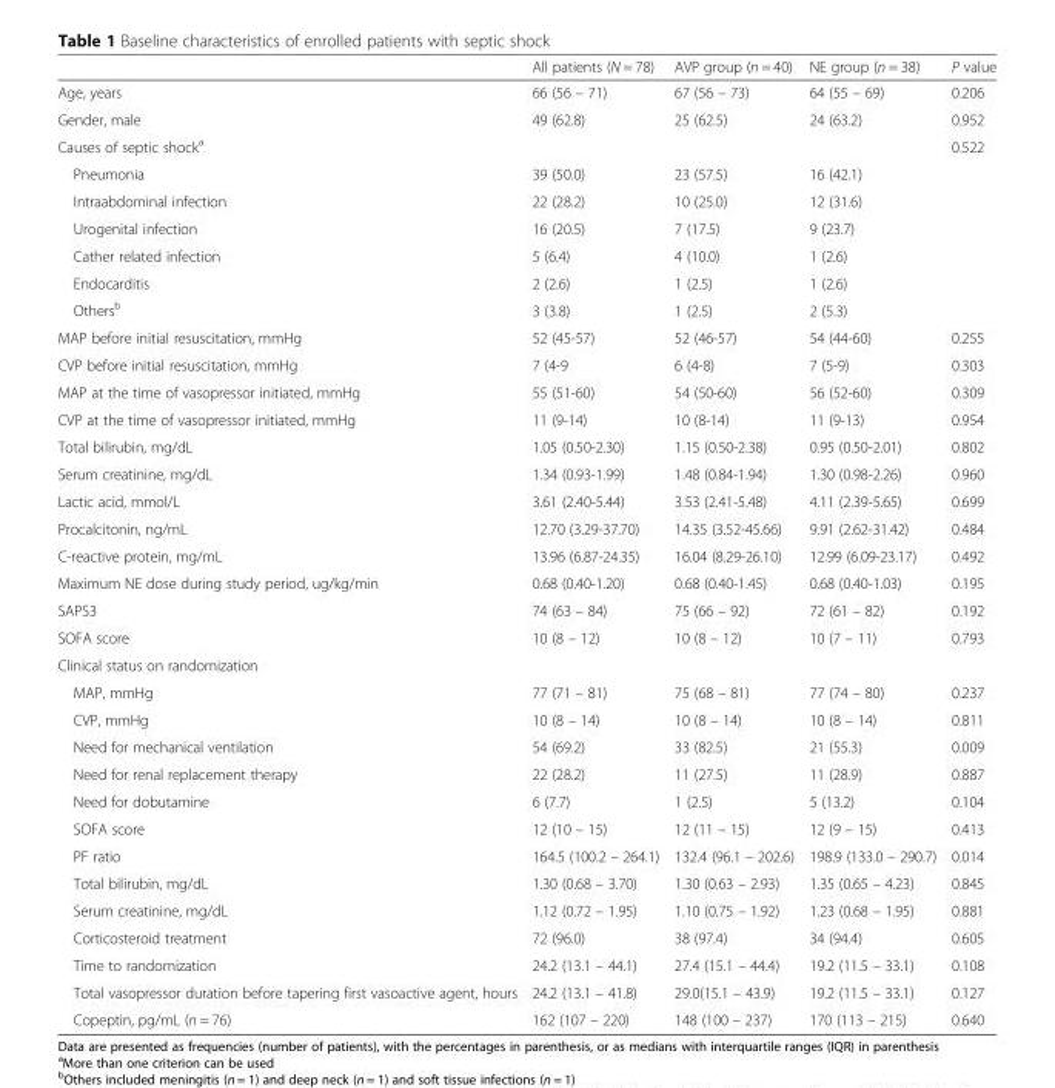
<table><thead><tr><td></td><td>All patients (N = 78)</td><td>AVP group (n = 40)</td><td>NE group (n = 38)</td><td>P value</td></tr></thead><tbody><tr><td>Age, years</td><td>66 (56 – 71)</td><td>67 (56 – 73)</td><td>64 (55 – 69)</td><td>0.206</td></tr><tr><td>Gender, male</td><td>49 (62.8)</td><td>25 (62.5)</td><td>24 (63.2)</td><td>0.952</td></tr><tr><td>Causes of septic shock<sup>a</sup></td><td></td><td></td><td></td><td>0.522</td></tr><tr><td>Pneumonia</td><td>39 (50.0)</td><td>23 (57.5)</td><td>16 (42.1)</td><td></td></tr><tr><td>Intraabdominal infection</td><td>22 (28.2)</td><td>10 (25.0)</td><td>12 (31.6)</td><td></td></tr><tr><td>Urogenital infection</td><td>16 (20.5)</td><td>7 (17.5)</td><td>9 (23.7)</td><td></td></tr><tr><td>Cather related infection</td><td>5 (6.4)</td><td>4 (10.0)</td><td>1 (2.6)</td><td></td></tr><tr><td>Endocarditis</td><td>2 (2.6)</td><td>1 (2.5)</td><td>1 (2.6)</td><td></td></tr><tr><td>Others<sup>b</sup></td><td>3 (3.8)</td><td>1 (2.5)</td><td>2 (5.3)</td><td></td></tr><tr><td>MAP before initial resuscitation, mmHg</td><td>52 (45-57)</td><td>52 (46-57)</td><td>54 (44-60)</td><td>0.255</td></tr><tr><td>CVP before initial resuscitation, mmHg</td><td>7 (4-9</td><td>6 (4-8)</td><td>7 (5-9)</td><td>0.303</td></tr><tr><td>MAP at the time of vasopressor initiated, mmHg</td><td>55 (51-60)</td><td>54 (50-60)</td><td>56 (52-60)</td><td>0.309</td></tr><tr><td>CVP at the time of vasopressor initiated, mmHg</td><td>11 (9-14)</td><td>10 (8-14)</td><td>11 (9-13)</td><td>0.954</td></tr><tr><td>Total bilirubin, mg/dL</td><td>1.05 (0.50-2.30)</td><td>1.15 (0.50-2.38)</td><td>0.95 (0.50-2.01)</td><td>0.802</td></tr><tr><td>Serum creatinine, mg/dL</td><td>1.34 (0.93-1.99)</td><td>1.48 (0.84-1.94)</td><td>1.30 (0.98-2.26)</td><td>0.960</td></tr><tr><td>Lactic acid, mmol/L</td><td>3.61 (2.40-5.44)</td><td>3.53 (2.41-5.48)</td><td>4.11 (2.39-5.65)</td><td>0.699</td></tr><tr><td>Procalcitonin, ng/mL</td><td>12.70 (3.29-37.70)</td><td>14.35 (3.52-45.66)</td><td>9.91 (2.62-31.42)</td><td>0.484</td></tr><tr><td>C-reactive protein, mg/mL</td><td>13.96 (6.87-24.35)</td><td>16.04 (8.29-26.10)</td><td>12.99 (6.09-23.17)</td><td>0.492</td></tr><tr><td>Maximum NE dose during study period, ug/kg/min</td><td>0.68 (0.40-1.20)</td><td>0.68 (0.40-1.45)</td><td>0.68 (0.40-1.03)</td><td>0.195</td></tr><tr><td>SAPS3</td><td>74 (63 – 84)</td><td>75 (66 – 92)</td><td>72 (61 – 82)</td><td>0.192</td></tr><tr><td>SOFA score</td><td>10 (8 – 12)</td><td>10 (8 – 12)</td><td>10 (7 – 11)</td><td>0.793</td></tr><tr><td colspan="5">Clinical status on randomization</td></tr><tr><td>MAP, mmHg</td><td>77 (71 – 81)</td><td>75 (68 – 81)</td><td>77 (74 – 80)</td><td>0.237</td></tr><tr><td>CVP, mmHg</td><td>10 (8 – 14)</td><td>10 (8 – 14)</td><td>10 (8 – 14)</td><td>0.811</td></tr><tr><td>Need for mechanical ventilation</td><td>54 (69.2)</td><td>33 (82.5)</td><td>21 (55.3)</td><td>0.009</td></tr><tr><td>Need for renal replacement therapy</td><td>22 (28.2)</td><td>11 (27.5)</td><td>11 (28.9)</td><td>0.887</td></tr><tr><td>Need for dobutamine</td><td>6 (7.7)</td><td>1 (2.5)</td><td>5 (13.2)</td><td>0.104</td></tr><tr><td>SOFA score</td><td>12 (10 – 15)</td><td>12 (11 – 15)</td><td>12 (9 – 15)</td><td>0.413</td></tr><tr><td>PF ratio</td><td>164.5 (100.2 – 264.1)</td><td>132.4 (96.1 – 202.6)</td><td>198.9 (133.0 – 290.7)</td><td>0.014</td></tr><tr><td>Total bilirubin, mg/dL</td><td>1.30 (0.68 – 3.70)</td><td>1.30 (0.63 – 2.93)</td><td>1.35 (0.65 – 4.23)</td><td>0.845</td></tr><tr><td>Serum creatinine, mg/dL</td><td>1.12 (0.72 – 1.95)</td><td>1.10 (0.75 – 1.92)</td><td>1.23 (0.68 – 1.95)</td><td>0.881</td></tr><tr><td>Corticosteroid treatment</td><td>72 (96.0)</td><td>38 (97.4)</td><td>34 (94.4)</td><td>0.605</td></tr><tr><td>Time to randomization</td><td>24.2 (13.1 – 44.1)</td><td>27.4 (15.1 – 44.4)</td><td>19.2 (11.5 – 33.1)</td><td>0.108</td></tr><tr><td>Total vasopressor duration before tapering first vasoactive agent, hours</td><td>24.2 (13.1 – 41.8)</td><td>29.0(15.1 – 43.9)</td><td>19.2 (11.5 – 33.1)</td><td>0.127</td></tr><tr><td>Copeptin, pg/mL (n = 76)</td><td>162 (107 – 220)</td><td>148 (100 – 237)</td><td>170 (113 – 215)</td><td>0.640</td></tr></tbody></table>